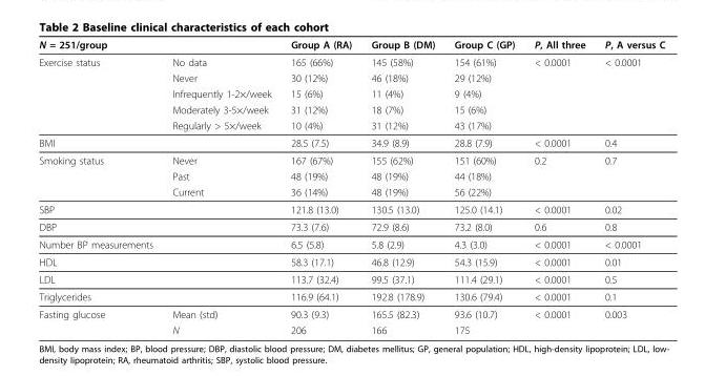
<table><thead><tr><td>N = 251/group</td><td></td><td>Group A (RA)</td><td>Group B (DM)</td><td>Group C (GP)</td><td>P, All three</td><td>P, A versus C</td></tr></thead><tbody><tr><td rowspan="5">Exercise status</td><td>No data</td><td>165 (66%)</td><td>145 (58%)</td><td>154 (61%)</td><td>&lt; 0.0001</td><td>&lt; 0.0001</td></tr><tr><td>Never</td><td>30 (12%)</td><td>46 (18%)</td><td>29 (12%)</td><td></td><td></td></tr><tr><td>Infrequently 1-2×/week</td><td>15 (6%)</td><td>11 (4%)</td><td>9 (4%)</td><td></td><td></td></tr><tr><td>Moderately 3-5×/week</td><td>31 (12%)</td><td>18 (7%)</td><td>15 (6%)</td><td></td><td></td></tr><tr><td>Regularly &gt; 5×/week</td><td>10 (4%)</td><td>31 (12%)</td><td>43 (17%)</td><td></td><td></td></tr><tr><td>BMI</td><td></td><td>28.5 (7.5)</td><td>34.9 (8.9)</td><td>28.8 (7.9)</td><td>&lt; 0.0001</td><td>0.4</td></tr><tr><td rowspan="3">Smoking status</td><td>Never</td><td>167 (67%)</td><td>155 (62%)</td><td>151 (60%)</td><td>0.2</td><td>0.7</td></tr><tr><td>Past</td><td>48 (19%)</td><td>48 (19%)</td><td>44 (18%)</td><td></td><td></td></tr><tr><td>Current</td><td>36 (14%)</td><td>48 (19%)</td><td>56 (22%)</td><td></td><td></td></tr><tr><td>SBP</td><td></td><td>121.8 (13.0)</td><td>130.5 (13.0)</td><td>125.0 (14.1)</td><td>&lt; 0.0001</td><td>0.02</td></tr><tr><td>DBP</td><td></td><td>73.3 (7.6)</td><td>72.9 (8.6)</td><td>73.2 (8.0)</td><td>0.6</td><td>0.8</td></tr><tr><td>Number BP measurements</td><td></td><td>6.5 (5.8)</td><td>5.8 (2.9)</td><td>4.3 (3.0)</td><td>&lt; 0.0001</td><td>&lt; 0.0001</td></tr><tr><td>HDL</td><td></td><td>58.3 (17.1)</td><td>46.8 (12.9)</td><td>54.3 (15.9)</td><td>&lt; 0.0001</td><td>0.01</td></tr><tr><td>LDL</td><td></td><td>113.7 (32.4)</td><td>99.5 (37.1)</td><td>111.4 (29.1)</td><td>&lt; 0.0001</td><td>0.5</td></tr><tr><td>Triglycerides</td><td></td><td>116.9 (64.1)</td><td>192.8 (178.9)</td><td>130.6 (79.4)</td><td>&lt; 0.0001</td><td>0.1</td></tr><tr><td rowspan="2">Fasting glucose</td><td>Mean (std)</td><td>90.3 (9.3)</td><td>165.5 (82.3)</td><td>93.6 (10.7)</td><td>&lt; 0.0001</td><td>0.003</td></tr><tr><td>N</td><td>206</td><td>166</td><td>175</td><td></td><td></td></tr></tbody></table>